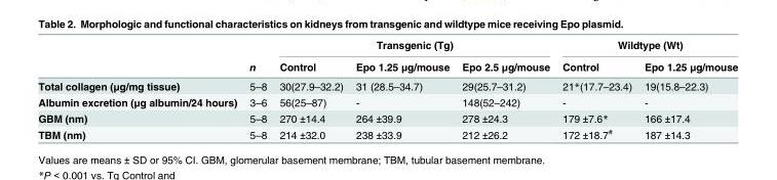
<table><thead><tr><td rowspan="2"></td><td rowspan="2">n</td><td colspan="3">Transgenic (Tg)</td><td colspan="2">Wildtype (Wt)</td></tr><tr><td>Control</td><td>Epo 1.25 μg/mouse</td><td>Epo 2.5 μg/mouse</td><td>Control</td><td>Epo 1.25 μg/mouse</td></tr></thead><tbody><tr><td>Total collagen (μg/mg tissue)</td><td>5–8</td><td>30(27.9–32.2)</td><td>31 (28.5–34.7)</td><td>29(25.7–31.2)</td><td>21*(17.7–23.4)</td><td>19(15.8–22.3)</td></tr><tr><td>Albumin excretion (μg albumin/24 hours)</td><td>3–6</td><td>56(25–87)</td><td>-</td><td>148(52–242)</td><td>-</td><td>-</td></tr><tr><td>GBM (nm)</td><td>5–8</td><td>270 ±14.4</td><td>264 ±39.9</td><td>278 ±24.3</td><td>179 ±7.6*</td><td>166 ±17.4</td></tr><tr><td>TBM (nm)</td><td>5–8</td><td>214 ±32.0</td><td>238 ±33.9</td><td>212 ±26.2</td><td>172 ±18.7<sup>#</sup></td><td>187 ±14.3</td></tr></tbody></table>